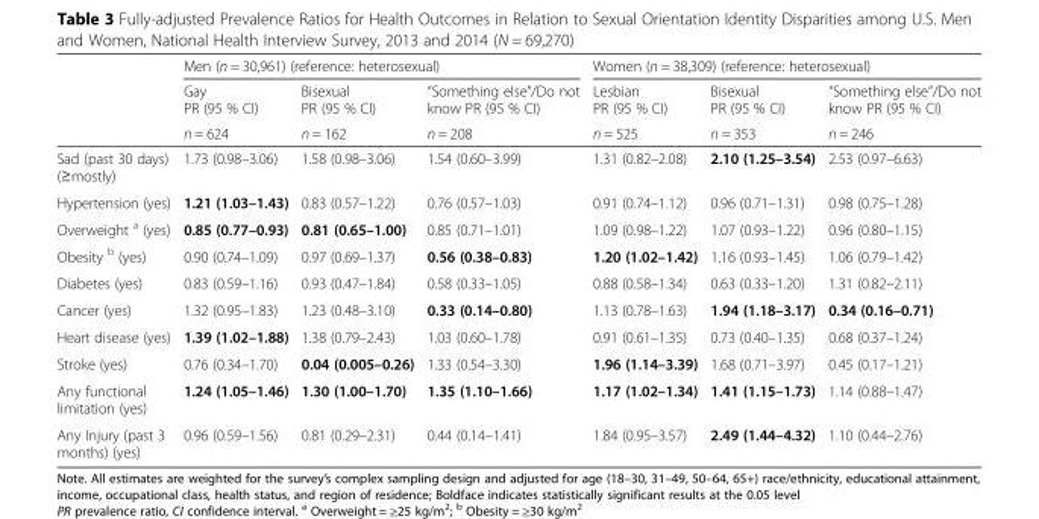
<table><thead><tr><td rowspan="3"></td><td colspan="3">Men (n = 30,961) (reference: heterosexual)</td><td colspan="3">Women (n = 38,309) (reference: heterosexual)</td></tr><tr><td rowspan="2">Gay PR (95 % CI) n = 624</td><td rowspan="2">Bisexual PR (95 % CI) n = 162</td><td rowspan="2">“Something else”/Do not know PR (95 % CI) n = 208</td><td rowspan="2">Lesbian PR (95 % CI) n = 525</td><td rowspan="2">Bisexual PR (95 % CI) n = 353</td><td rowspan="2">“Something else”/Do not know PR (95 % CI) n = 246</td></tr><tr></tr></thead><tbody><tr><td>Sad (past 30 days) (≥mostly)</td><td>1.73 (0.98–3.06)</td><td>1.58 (0.98–3.06)</td><td>1.54 (0.60–3.99)</td><td>1.31 (0.82–2.08)</td><td>2.10 (1.25–3.54)</td><td>2.53 (0.97–6.63)</td></tr><tr><td>Hypertension (yes)</td><td>1.21 (1.03–1.43)</td><td>0.83 (0.57–1.22)</td><td>0.76 (0.57–1.03)</td><td>0.91 (0.74–1.12)</td><td>0.96 (0.71–1.31)</td><td>0.98 (0.75–1.28)</td></tr><tr><td>Overweight <sup>a</sup> (yes)</td><td>0.85 (0.77–0.93)</td><td>0.81 (0.65–1.00)</td><td>0.85 (0.71–1.01)</td><td>1.09 (0.98–1.22)</td><td>1.07 (0.93–1.22)</td><td>0.96 (0.80–1.15)</td></tr><tr><td>Obesity <sup>b</sup> (yes)</td><td>0.90 (0.74–1.09)</td><td>0.97 (0.69–1.37)</td><td>0.56 (0.38–0.83)</td><td>1.20 (1.02–1.42)</td><td>1.16 (0.93–1.45)</td><td>1.06 (0.79–1.42)</td></tr><tr><td>Diabetes (yes)</td><td>0.83 (0.59–1.16)</td><td>0.93 (0.47–1.84)</td><td>0.58 (0.33–1.05)</td><td>0.88 (0.58–1.34)</td><td>0.63 (0.33–1.20)</td><td>1.31 (0.82–2.11)</td></tr><tr><td>Cancer (yes)</td><td>1.32 (0.95–1.83)</td><td>1.23 (0.48–3.10)</td><td>0.33 (0.14–0.80)</td><td>1.13 (0.78–1.63)</td><td>1.94 (1.18–3.17)</td><td>0.34 (0.16–0.71)</td></tr><tr><td>Heart disease (yes)</td><td>1.39 (1.02–1.88)</td><td>1.38 (0.79–2.43)</td><td>1.03 (0.60–1.78)</td><td>0.91 (0.61–1.35)</td><td>0.73 (0.40–1.35)</td><td>0.68 (0.37–1.24)</td></tr><tr><td>Stroke (yes)</td><td>0.76 (0.34–1.70)</td><td>0.04 (0.005–0.26)</td><td>1.33 (0.54–3.30)</td><td>1.96 (1.14–3.39)</td><td>1.68 (0.71–3.97)</td><td>0.45 (0.17–1.21)</td></tr><tr><td>Any functional limitation (yes)</td><td>1.24 (1.05–1.46)</td><td>1.30 (1.00–1.70)</td><td>1.35 (1.10–1.66)</td><td>1.17 (1.02–1.34)</td><td>1.41 (1.15–1.73)</td><td>1.14 (0.88–1.47)</td></tr><tr><td>Any Injury (past 3 months) (yes)</td><td>0.96 (0.59–1.56)</td><td>0.81 (0.29–2.31)</td><td>0.44 (0.14–1.41)</td><td>1.84 (0.95–3.57)</td><td>2.49 (1.44–4.32)</td><td>1.10 (0.44–2.76)</td></tr></tbody></table>